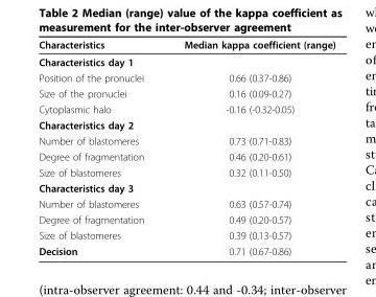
<table><thead><tr><td>Characteristics</td><td>Median kappa coefficient (range)</td></tr></thead><tbody><tr><td colspan="2">Characteristics day 1</td></tr><tr><td>Position of the pronuclei</td><td>0.66 (0.37-0.86)</td></tr><tr><td>Size of the pronuclei</td><td>0.16 (0.09-0.27)</td></tr><tr><td>Cytoplasmic halo</td><td>-0.16 (-0.32-0.05)</td></tr><tr><td colspan="2">Characteristics day 2</td></tr><tr><td>Number of blastomeres</td><td>0.73 (0.71-0.83)</td></tr><tr><td>Degree of fragmentation</td><td>0.46 (0.20-0.61)</td></tr><tr><td>Size of blastomeres</td><td>0.32 (0.11-0.50)</td></tr><tr><td colspan="2">Characteristics day 3</td></tr><tr><td>Number of blastomeres</td><td>0.63 (0.57-0.74)</td></tr><tr><td>Degree of fragmentation</td><td>0.49 (0.20-0.57)</td></tr><tr><td>Size of blastomeres</td><td>0.39 (0.13-0.57)</td></tr><tr><td>Decision</td><td>0.71 (0.67-0.86)</td></tr></tbody></table>